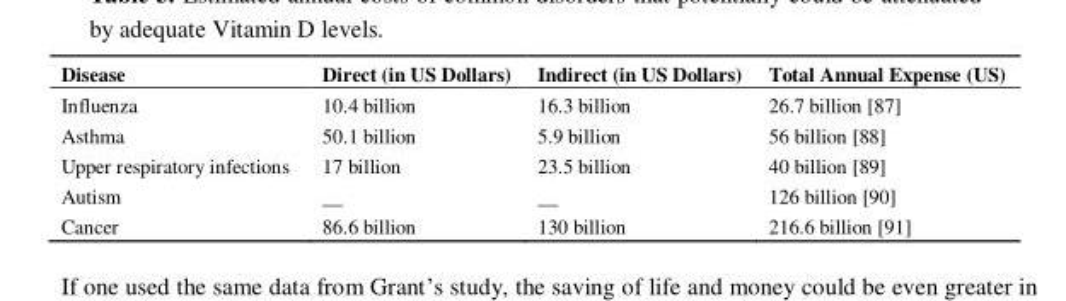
<table><thead><tr><td>Disease</td><td>Direct (in US Dollars)</td><td>Indirect (in US Dollars)</td><td>Total Annual Expense (US)</td></tr></thead><tbody><tr><td>Influenza</td><td>10.4 billion</td><td>16.3 billion</td><td>26.7 billion [87]</td></tr><tr><td>Asthma</td><td>50.1 billion</td><td>5.9 billion</td><td>56 billion [88]</td></tr><tr><td>Upper respiratory infections</td><td>17 billion</td><td>23.5 billion</td><td>40 billion [89]</td></tr><tr><td>Autism</td><td>__</td><td>__</td><td>126 billion [90]</td></tr><tr><td>Cancer</td><td>86.6 billion</td><td>130 billion</td><td>216.6 billion [91]</td></tr></tbody></table>